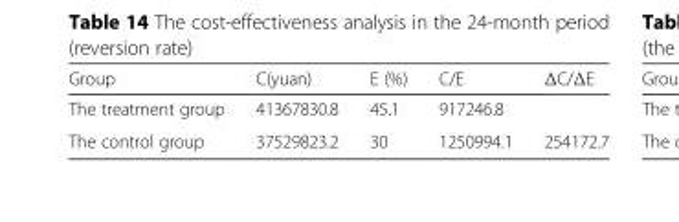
<table><thead><tr><td>Group</td><td>C(yuan)</td><td>E (%)</td><td>C/E</td><td>ΔC/ΔE</td></tr></thead><tbody><tr><td>The treatment group</td><td>41367830.8</td><td>45.1</td><td>917246.8</td><td></td></tr><tr><td>The control group</td><td>37529823.2</td><td>30</td><td>1250994.1</td><td>254172.7</td></tr></tbody></table>